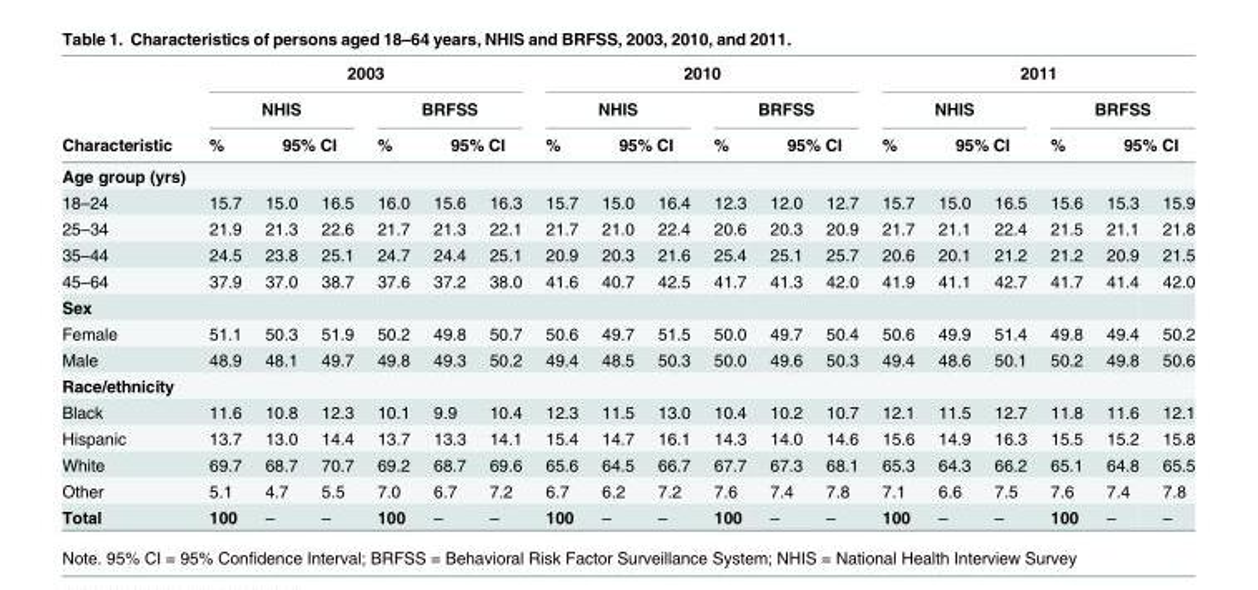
<table><thead><tr><td rowspan="4">Characteristic Age group (yrs)</td><td colspan="6">2003</td><td colspan="6">2010</td><td colspan="6">2011</td></tr><tr><td colspan="3">NHIS</td><td colspan="3">BRFSS</td><td colspan="3">NHIS</td><td colspan="3">BRFSS</td><td colspan="3">NHIS</td><td colspan="3">BRFSS</td></tr><tr><td rowspan="2">%</td><td colspan="2">95% CI</td><td rowspan="2">%</td><td colspan="2">95% CI</td><td rowspan="2">%</td><td colspan="2">95% CI</td><td rowspan="2">%</td><td colspan="2">95% CI</td><td rowspan="2">%</td><td colspan="2">95% CI</td><td rowspan="2">%</td><td colspan="2">95% CI</td></tr><tr><td></td><td></td><td></td><td></td><td></td><td></td><td></td><td></td><td></td><td></td><td></td><td></td></tr></thead><tbody><tr><td>18–24</td><td>15.7</td><td>15.0</td><td>16.5</td><td>16.0</td><td>15.6</td><td>16.3</td><td>15.7</td><td>15.0</td><td>16.4</td><td>12.3</td><td>12.0</td><td>12.7</td><td>15.7</td><td>15.0</td><td>16.5</td><td>15.6</td><td>15.3</td><td>15.9</td></tr><tr><td>25–34</td><td>21.9</td><td>21.3</td><td>22.6</td><td>21.7</td><td>21.3</td><td>22.1</td><td>21.7</td><td>21.0</td><td>22.4</td><td>20.6</td><td>20.3</td><td>20.9</td><td>21.7</td><td>21.1</td><td>22.4</td><td>21.5</td><td>21.1</td><td>21.8</td></tr><tr><td>35–44</td><td>24.5</td><td>23.8</td><td>25.1</td><td>24.7</td><td>24.4</td><td>25.1</td><td>20.9</td><td>20.3</td><td>21.6</td><td>25.4</td><td>25.1</td><td>25.7</td><td>20.6</td><td>20.1</td><td>21.2</td><td>21.2</td><td>20.9</td><td>21.5</td></tr><tr><td>45–64</td><td>37.9</td><td>37.0</td><td>38.7</td><td>37.6</td><td>37.2</td><td>38.0</td><td>41.6</td><td>40.7</td><td>42.5</td><td>41.7</td><td>41.3</td><td>42.0</td><td>41.9</td><td>41.1</td><td>42.7</td><td>41.7</td><td>41.4</td><td>42.0</td></tr><tr><td colspan="19">Sex</td></tr><tr><td>Female</td><td>51.1</td><td>50.3</td><td>51.9</td><td>50.2</td><td>49.8</td><td>50.7</td><td>50.6</td><td>49.7</td><td>51.5</td><td>50.0</td><td>49.7</td><td>50.4</td><td>50.6</td><td>49.9</td><td>51.4</td><td>49.8</td><td>49.4</td><td>50.2</td></tr><tr><td>Male</td><td>48.9</td><td>48.1</td><td>49.7</td><td>49.8</td><td>49.3</td><td>50.2</td><td>49.4</td><td>48.5</td><td>50.3</td><td>50.0</td><td>49.6</td><td>50.3</td><td>49.4</td><td>48.6</td><td>50.1</td><td>50.2</td><td>49.8</td><td>50.6</td></tr><tr><td colspan="19">Race/ethnicity</td></tr><tr><td>Black</td><td>11.6</td><td>10.8</td><td>12.3</td><td>10.1</td><td>9.9</td><td>10.4</td><td>12.3</td><td>11.5</td><td>13.0</td><td>10.4</td><td>10.2</td><td>10.7</td><td>12.1</td><td>11.5</td><td>12.7</td><td>11.8</td><td>11.6</td><td>12.1</td></tr><tr><td>Hispanic</td><td>13.7</td><td>13.0</td><td>14.4</td><td>13.7</td><td>13.3</td><td>14.1</td><td>15.4</td><td>14.7</td><td>16.1</td><td>14.3</td><td>14.0</td><td>14.6</td><td>15.6</td><td>14.9</td><td>16.3</td><td>15.5</td><td>15.2</td><td>15.8</td></tr><tr><td>White</td><td>69.7</td><td>68.7</td><td>70.7</td><td>69.2</td><td>68.7</td><td>69.6</td><td>65.6</td><td>64.5</td><td>66.7</td><td>67.7</td><td>67.3</td><td>68.1</td><td>65.3</td><td>64.3</td><td>66.2</td><td>65.1</td><td>64.8</td><td>65.5</td></tr><tr><td>Other</td><td>5.1</td><td>4.7</td><td>5.5</td><td>7.0</td><td>6.7</td><td>7.2</td><td>6.7</td><td>6.2</td><td>7.2</td><td>7.6</td><td>7.4</td><td>7.8</td><td>7.1</td><td>6.6</td><td>7.5</td><td>7.6</td><td>7.4</td><td>7.8</td></tr><tr><td>Total</td><td>100</td><td>–</td><td>–</td><td>100</td><td>–</td><td>–</td><td>100</td><td>–</td><td>–</td><td>100</td><td>–</td><td>–</td><td>100</td><td>–</td><td>–</td><td>100</td><td>–</td><td>–</td></tr></tbody></table>